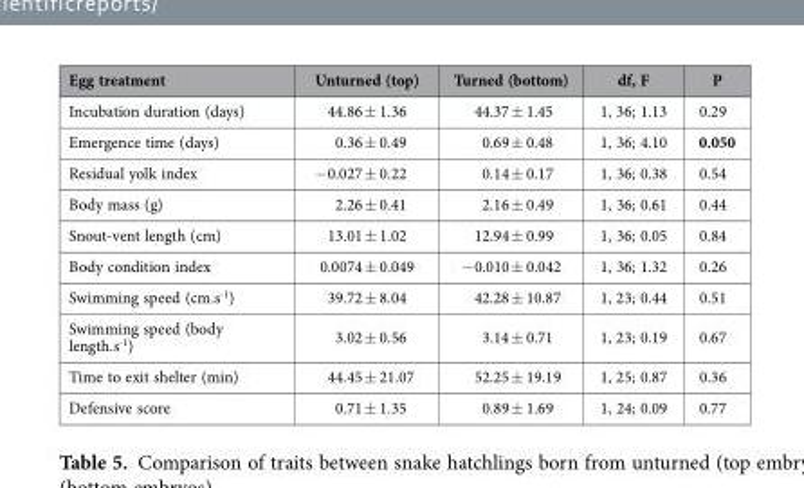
<table><thead><tr><td>Egg treatment</td><td>Unturned (top)</td><td>Turned (bottom)</td><td>df, F</td><td>P</td></tr></thead><tbody><tr><td>Incubation duration (days)</td><td>44.86 ± 1.36</td><td>44.37 ± 1.45</td><td>1, 36; 1.13</td><td>0.29</td></tr><tr><td>Emergence time (days)</td><td>0.36 ± 0.49</td><td>0.69 ± 0.48</td><td>1, 36; 4.10</td><td>0.050</td></tr><tr><td>Residual yolk index</td><td>− 0.027 ± 0.22</td><td>0.14 ± 0.17</td><td>1, 36; 0.38</td><td>0.54</td></tr><tr><td>Body mass (g)</td><td>2.26 ± 0.41</td><td>2.16 ± 0.49</td><td>1, 36; 0.61</td><td>0.44</td></tr><tr><td>Snout-vent length (cm)</td><td>13.01 ± 1.02</td><td>12.94 ± 0.99</td><td>1, 36; 0.05</td><td>0.84</td></tr><tr><td>Body condition index</td><td>0.0074 ± 0.049</td><td>− 0.010 ± 0.042</td><td>1, 36; 1.32</td><td>0.26</td></tr><tr><td>Swimming speed (cm.s<sup>-1</sup>)</td><td>39.72 ± 8.04</td><td>42.28 ± 10.87</td><td>1, 23; 0.44</td><td>0.51</td></tr><tr><td>Swimming speed (body length.s<sup>-1</sup>)</td><td>3.02 ± 0.56</td><td>3.14 ± 0.71</td><td>1, 23; 0.19</td><td>0.67</td></tr><tr><td>Time to exit shelter (min)</td><td>44.45 ± 21.07</td><td>52.25 ± 19.19</td><td>1, 25; 0.87</td><td>0.36</td></tr><tr><td>Defensive score</td><td>0.71 ± 1.35</td><td>0.89 ± 1.69</td><td>1, 24; 0.09</td><td>0.77</td></tr></tbody></table>